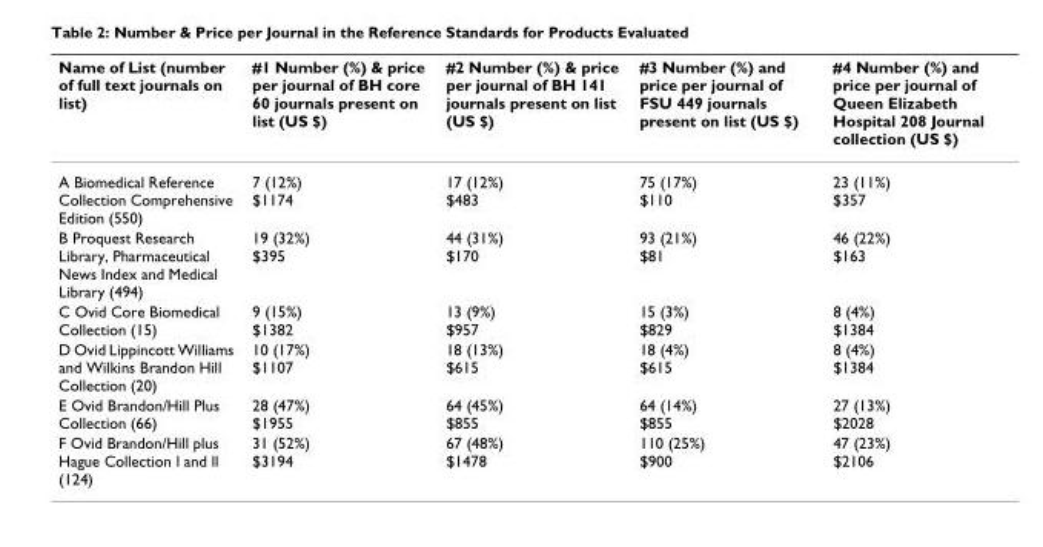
<table><thead><tr><td>Name of List (number of full text journals on list)</td><td>#1 Number (%) &amp; price per journal of BH core 60 journals present on list (US $)</td><td>#2 Number (%) &amp; price per journal of BH 141 journals present on list (US $)</td><td>#3 Number (%) and price per journal of FSU 449 journals present on list (US $)</td><td>#4 Number (%) and price per journal of Queen Elizabeth Hospital 208 Journal collection (US $)</td></tr></thead><tbody><tr><td>A Biomedical Reference Collection Comprehensive Edition (550)</td><td>7 (12%) $1174</td><td>17 (12%) $483</td><td>75 (17%) $110</td><td>23 (11%) $357</td></tr><tr><td>B Proquest Research Library, Pharmaceutical News Index and Medical Library (494)</td><td>19 (32%) $395</td><td>44 (31%) $170</td><td>93 (21%) $81</td><td>46 (22%) $163</td></tr><tr><td>C Ovid Core Biomedical Collection (15)</td><td>9 (15%) $1382</td><td>13 (9%) $957</td><td>15 (3%) $829</td><td>8 (4%) $1384</td></tr><tr><td>D Ovid Lippincott Williams and Wilkins Brandon Hill Collection (20)</td><td>10 (17%) $1107</td><td>18 (13%) $615</td><td>18 (4%) $615</td><td>8 (4%) $1384</td></tr><tr><td>E Ovid Brandon/Hill Plus Collection (66)</td><td>28 (47%) $1955</td><td>64 (45%) $855</td><td>64 (14%) $855</td><td>27 (13%) $2028</td></tr><tr><td>F Ovid Brandon/Hill plus Hague Collection l and ll (124)</td><td>31 (52%) $3194</td><td>67 (48%) $1478</td><td>110 (25%) $900</td><td>47 (23%) $2106</td></tr></tbody></table>